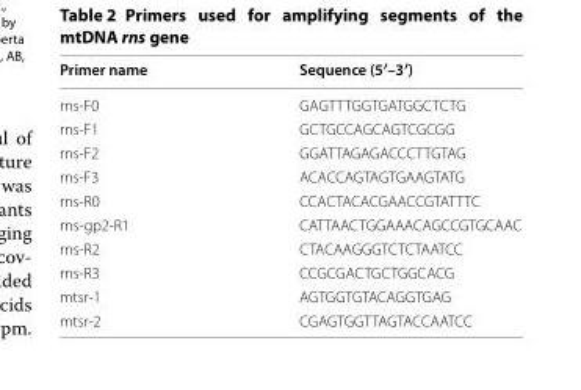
<table><thead><tr><td>Primer name</td><td>Sequence (5′–3′)</td></tr></thead><tbody><tr><td>rns-F0</td><td>GAGTTTGGTGATGGCTCTG</td></tr><tr><td>rns-F1</td><td>GCTGCCAGCAGTCGCGG</td></tr><tr><td>rns-F2</td><td>GGATTAGAGACCCTTGTAG</td></tr><tr><td>rns-F3</td><td>ACACCAGTAGTGAAGTATG</td></tr><tr><td>rns-R0</td><td>CCACTACACGAACCGTATTTC</td></tr><tr><td>rns-gp2-R1</td><td>CATTAACTGGAAACAGCCGTGCAAC</td></tr><tr><td>rns-R2</td><td>CTACAAGGGTCTCTAATCC</td></tr><tr><td>rns-R3</td><td>CCGCGACTGCTGGCACG</td></tr><tr><td>mtsr-1</td><td>AGTGGTGTACAGGTGAG</td></tr><tr><td>mtsr-2</td><td>CGAGTGGTTAGTACCAATCC</td></tr></tbody></table>